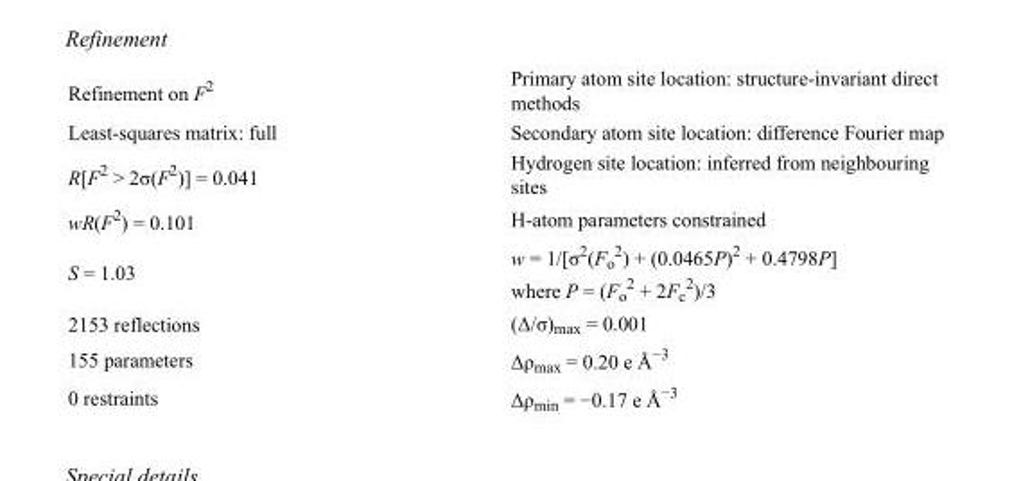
<table><tbody><tr><td>Refinement on F<sup>2</sup></td><td>Primary atom site location: structure-invariant direct methods</td></tr><tr><td>Least-squares matrix: full</td><td>Secondary atom site location: difference Fourier map</td></tr><tr><td>R[F<sup>2</sup> &gt; 2σ(F<sup>2</sup>)] = 0.041</td><td>Hydrogen site location: inferred from neighbouring sites</td></tr><tr><td>wR(F<sup>2</sup>) = 0.101</td><td>H-atom parameters constrained</td></tr><tr><td>S = 1.03</td><td>w = 1/[σ<sup>2</sup>(F<sub>o</sub> <sup>2</sup>) + (0.0465P)<sup>2</sup> + 0.4798P] where P = (F<sub>o</sub> <sup>2</sup> + 2F<sub>c</sub> <sup>2</sup>)/3</td></tr><tr><td>2153 reflections</td><td>(Δ/σ)<sub>max</sub> = 0.001</td></tr><tr><td>155 parameters</td><td>Δρ<sub>max</sub> = 0.20 e Å<sup>−3</sup></td></tr><tr><td>0 restraints</td><td>Δρ<sub>min</sub> = −0.17 e Å<sup>−3</sup></td></tr></tbody></table>